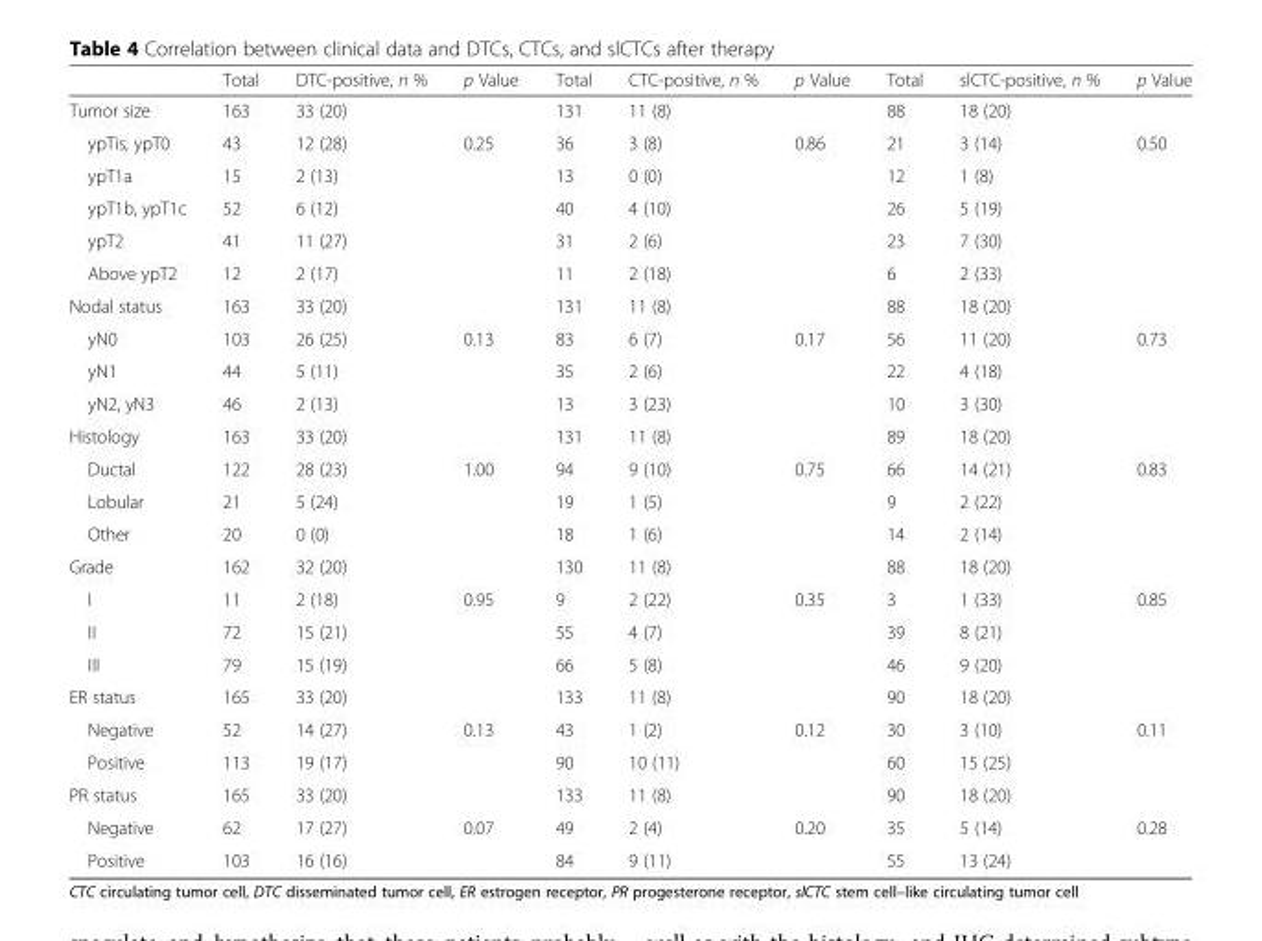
<table><thead><tr><td></td><td>Total</td><td>DTC-positive, n %</td><td>p Value</td><td>Total</td><td>CTC-positive, n %</td><td>p Value</td><td>Total</td><td>slCTC-positive, n %</td><td>p Value</td></tr></thead><tbody><tr><td>Tumor size</td><td>163</td><td>33 (20)</td><td></td><td>131</td><td>11 (8)</td><td></td><td>88</td><td>18 (20)</td><td></td></tr><tr><td>ypTis, ypT0</td><td>43</td><td>12 (28)</td><td>0.25</td><td>36</td><td>3 (8)</td><td>0.86</td><td>21</td><td>3 (14)</td><td>0.50</td></tr><tr><td>ypT1a</td><td>15</td><td>2 (13)</td><td></td><td>13</td><td>0 (0)</td><td></td><td>12</td><td>1 (8)</td><td></td></tr><tr><td>ypT1b, ypT1c</td><td>52</td><td>6 (12)</td><td></td><td>40</td><td>4 (10)</td><td></td><td>26</td><td>5 (19)</td><td></td></tr><tr><td>ypT2</td><td>41</td><td>11 (27)</td><td></td><td>31</td><td>2 (6)</td><td></td><td>23</td><td>7 (30)</td><td></td></tr><tr><td>Above ypT2</td><td>12</td><td>2 (17)</td><td></td><td>11</td><td>2 (18)</td><td></td><td>6</td><td>2 (33)</td><td></td></tr><tr><td>Nodal status</td><td>163</td><td>33 (20)</td><td></td><td>131</td><td>11 (8)</td><td></td><td>88</td><td>18 (20)</td><td></td></tr><tr><td>yN0</td><td>103</td><td>26 (25)</td><td>0.13</td><td>83</td><td>6 (7)</td><td>0.17</td><td>56</td><td>11 (20)</td><td>0.73</td></tr><tr><td>yN1</td><td>44</td><td>5 (11)</td><td></td><td>35</td><td>2 (6)</td><td></td><td>22</td><td>4 (18)</td><td></td></tr><tr><td>yN2, yN3</td><td>46</td><td>2 (13)</td><td></td><td>13</td><td>3 (23)</td><td></td><td>10</td><td>3 (30)</td><td></td></tr><tr><td>Histology</td><td>163</td><td>33 (20)</td><td></td><td>131</td><td>11 (8)</td><td></td><td>89</td><td>18 (20)</td><td></td></tr><tr><td>Ductal</td><td>122</td><td>28 (23)</td><td>1.00</td><td>94</td><td>9 (10)</td><td>0.75</td><td>66</td><td>14 (21)</td><td>0.83</td></tr><tr><td>Lobular</td><td>21</td><td>5 (24)</td><td></td><td>19</td><td>1 (5)</td><td></td><td>9</td><td>2 (22)</td><td></td></tr><tr><td>Other</td><td>20</td><td>0 (0)</td><td></td><td>18</td><td>1 (6)</td><td></td><td>14</td><td>2 (14)</td><td></td></tr><tr><td>Grade</td><td>162</td><td>32 (20)</td><td></td><td>130</td><td>11 (8)</td><td></td><td>88</td><td>18 (20)</td><td></td></tr><tr><td>I</td><td>11</td><td>2 (18)</td><td>0.95</td><td>9</td><td>2 (22)</td><td>0.35</td><td>3</td><td>1 (33)</td><td>0.85</td></tr><tr><td>II</td><td>72</td><td>15 (21)</td><td></td><td>55</td><td>4 (7)</td><td></td><td>39</td><td>8 (21)</td><td></td></tr><tr><td>III</td><td>79</td><td>15 (19)</td><td></td><td>66</td><td>5 (8)</td><td></td><td>46</td><td>9 (20)</td><td></td></tr><tr><td>ER status</td><td>165</td><td>33 (20)</td><td></td><td>133</td><td>11 (8)</td><td></td><td>90</td><td>18 (20)</td><td></td></tr><tr><td>Negative</td><td>52</td><td>14 (27)</td><td>0.13</td><td>43</td><td>1 (2)</td><td>0.12</td><td>30</td><td>3 (10)</td><td>0.11</td></tr><tr><td>Positive</td><td>113</td><td>19 (17)</td><td></td><td>90</td><td>10 (11)</td><td></td><td>60</td><td>15 (25)</td><td></td></tr><tr><td>PR status</td><td>165</td><td>33 (20)</td><td></td><td>133</td><td>11 (8)</td><td></td><td>90</td><td>18 (20)</td><td></td></tr><tr><td>Negative</td><td>62</td><td>17 (27)</td><td>0.07</td><td>49</td><td>2 (4)</td><td>0.20</td><td>35</td><td>5 (14)</td><td>0.28</td></tr><tr><td>Positive</td><td>103</td><td>16 (16)</td><td></td><td>84</td><td>9 (11)</td><td></td><td>55</td><td>13 (24)</td><td></td></tr></tbody></table>